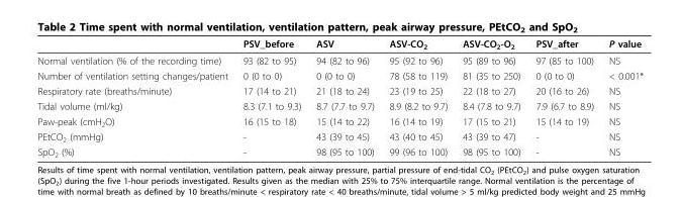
<table><thead><tr><td></td><td>PSV_before</td><td>ASV</td><td>ASV-CO<sub>2</sub></td><td>ASV-CO<sub>2</sub>-O<sub>2</sub></td><td>PSV_after</td><td>P value</td></tr></thead><tbody><tr><td>Normal ventilation (% of the recording time)</td><td>93 (82 to 95)</td><td>94 (82 to 96)</td><td>95 (92 to 96)</td><td>95 (89 to 96)</td><td>97 (85 to 100)</td><td>NS</td></tr><tr><td>Number of ventilation setting changes/patient</td><td>0 (0 to 0)</td><td>0 (0 to 0)</td><td>78 (58 to 119)</td><td>81 (35 to 250)</td><td>0 (0 to 0)</td><td>&lt; 0.001*</td></tr><tr><td>Respiratory rate (breaths/minute)</td><td>17 (14 to 21)</td><td>21 (18 to 24)</td><td>23 (19 to 25)</td><td>22 (18 to 27)</td><td>20 (16 to 26)</td><td>NS</td></tr><tr><td>Tidal volume (ml/kg)</td><td>8.3 (7.1 to 9.3)</td><td>8.7 (7.7 to 9.7)</td><td>8.9 (8.2 to 9.7)</td><td>8.4 (7.8 to 9.7)</td><td>7.9 (6.7 to 8.9)</td><td>NS</td></tr><tr><td>Paw-peak (cmH<sub>2</sub>O)</td><td>16 (15 to 18)</td><td>15 (14 to 22)</td><td>16 (14 to 19)</td><td>17 (15 to 21)</td><td>15 (14 to 19)</td><td>NS</td></tr><tr><td>PEtCO<sub>2</sub> (mmHg)</td><td>-</td><td>43 (39 to 45)</td><td>43 (40 to 45)</td><td>43 (39 to 47)</td><td>-</td><td>NS</td></tr><tr><td>SpO<sub>2</sub> (%)</td><td>-</td><td>98 (95 to 100)</td><td>99 (96 to 100)</td><td>98 (95 to 100)</td><td>-</td><td>NS</td></tr></tbody></table>